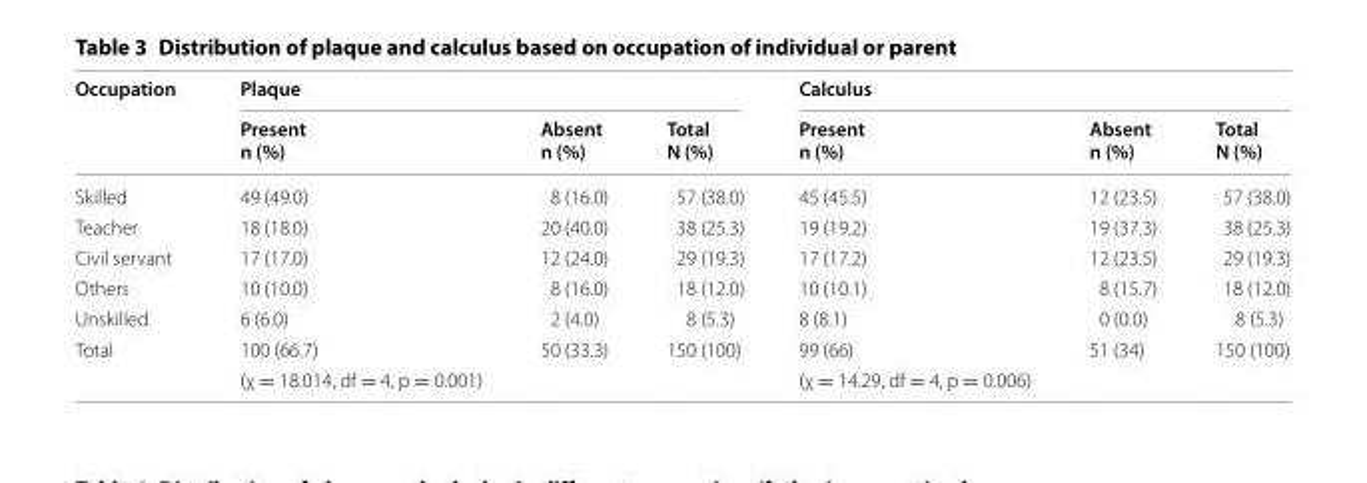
<table><thead><tr><td rowspan="2">Occupation</td><td colspan="3">Plaque</td><td colspan="3">Calculus</td></tr><tr><td>Present n (%)</td><td>Absent n (%)</td><td>Total N (%)</td><td>Present n (%)</td><td>Absent n (%)</td><td>Total N (%)</td></tr></thead><tbody><tr><td>Skilled</td><td>49 (49.0)</td><td>8 (16.0)</td><td>57 (38.0)</td><td>45 (45.5)</td><td>12 (23.5)</td><td>57 (38.0)</td></tr><tr><td>Teacher</td><td>18 (18.0)</td><td>20 (40.0)</td><td>38 (25.3)</td><td>19 (19.2)</td><td>19 (37.3)</td><td>38 (25.3)</td></tr><tr><td>Civil servant</td><td>17 (17.0)</td><td>12 (24.0)</td><td>29 (19.3)</td><td>17 (17.2)</td><td>12 (23.5)</td><td>29 (19.3)</td></tr><tr><td>Others</td><td>10 (10.0)</td><td>8 (16.0)</td><td>18 (12.0)</td><td>10 (10.1)</td><td>8 (15.7)</td><td>18 (12.0)</td></tr><tr><td>Unskilled</td><td>6 (6.0)</td><td>2 (4.0)</td><td>8 (5.3)</td><td>8 (8.1)</td><td>0 (0.0)</td><td>8 (5.3)</td></tr><tr><td rowspan="2">Total</td><td>100 (66.7)</td><td>50 (33.3)</td><td>150 (100)</td><td>99 (66)</td><td>51 (34)</td><td>150 (100)</td></tr><tr><td colspan="3">(χ = 18.014, df = 4, p = 0.001)</td><td colspan="3">(χ = 14.29, df = 4, p = 0.006)</td></tr></tbody></table>